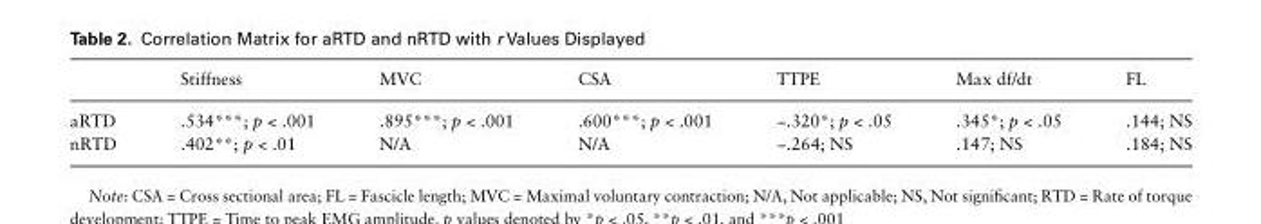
<table><thead><tr><td></td><td>Stiffness</td><td>MVC</td><td>CSA</td><td>TTPE</td><td>Max df/dt</td><td>FL</td></tr></thead><tbody><tr><td>aRTD</td><td>.534***; p &lt; .001</td><td>.895***; p &lt; .001</td><td>.600***; p &lt; .001</td><td>−.320*; p &lt; .05</td><td>.345*; p &lt; .05</td><td>.144; NS</td></tr><tr><td>nRTD</td><td>.402**; p &lt; .01</td><td>N/A</td><td>N/A</td><td>−.264; NS</td><td>.147; NS</td><td>.184; NS</td></tr></tbody></table>